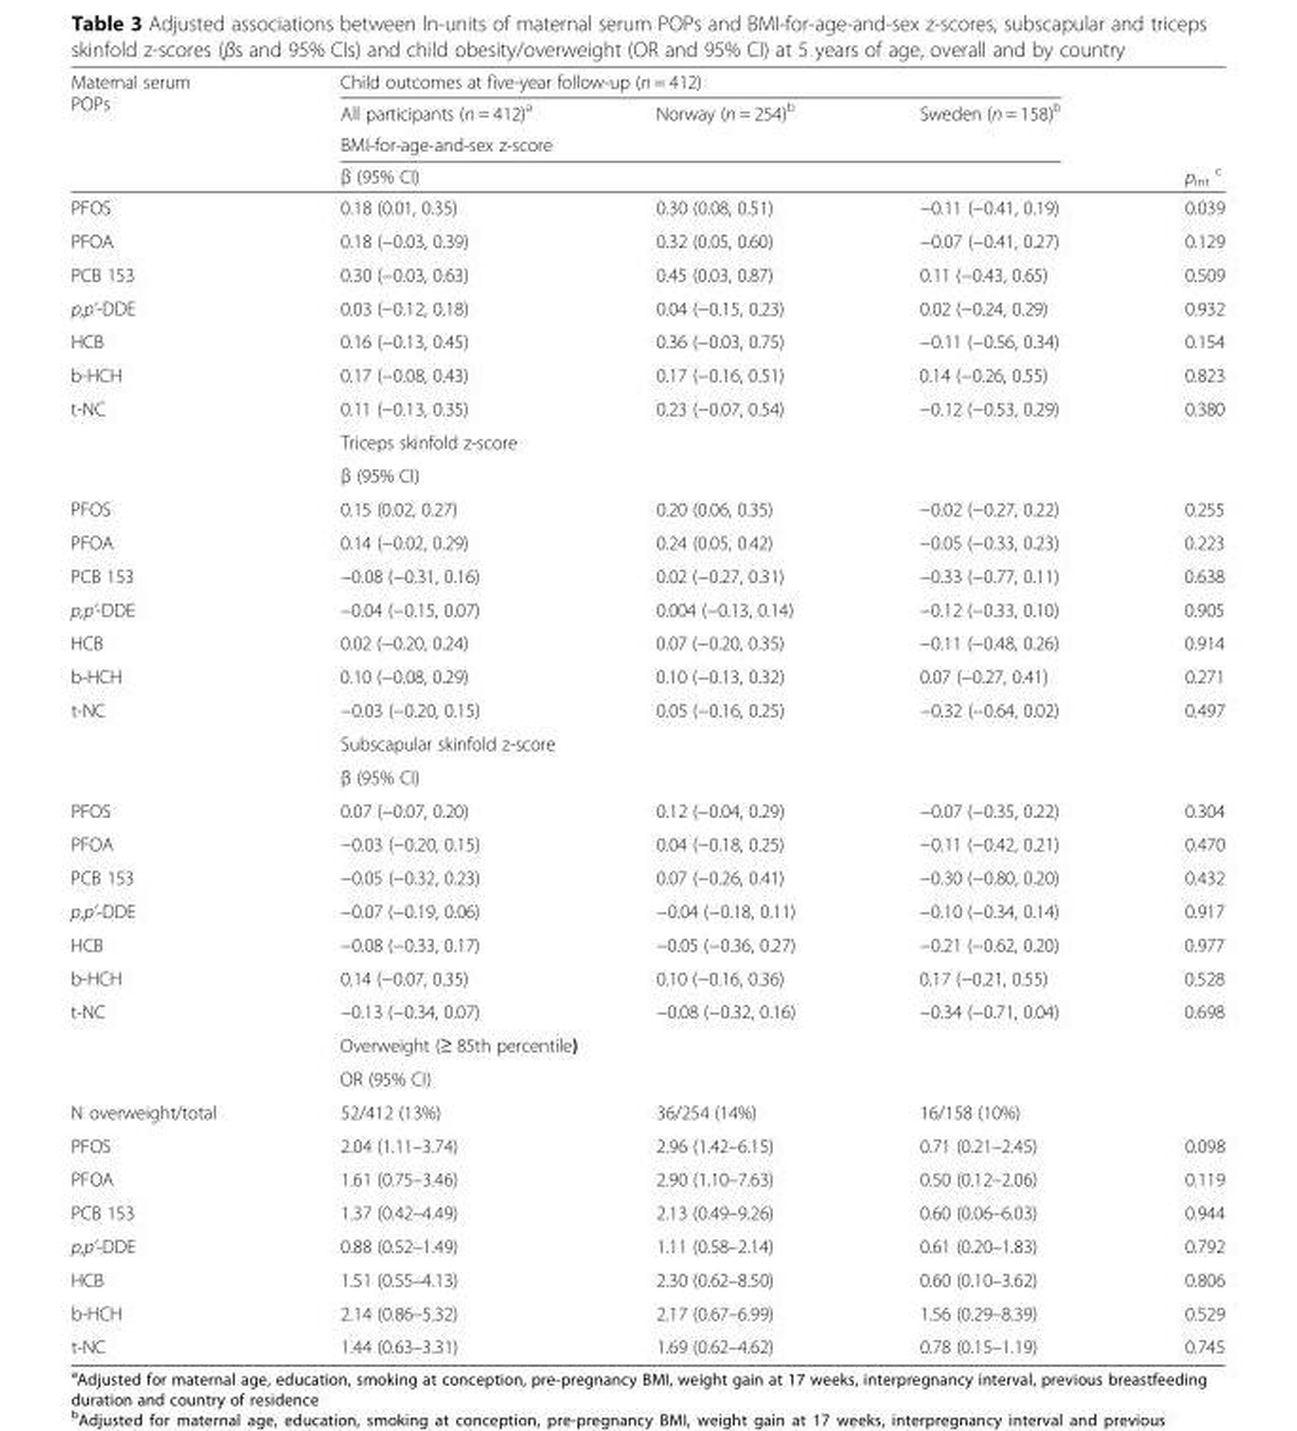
<table><thead><tr><td rowspan="4">Maternal serum POPs</td><td colspan="3">Child outcomes at five-year follow-up (n = 412)</td><td rowspan="4">p<sub>int</sub> <sup>c</sup></td></tr><tr><td>All participants (n = 412)<sup>a</sup></td><td>Norway (n = 254)<sup>b</sup></td><td>Sweden (n = 158)<sup>b</sup></td></tr><tr><td rowspan="2" colspan="3">BMI-for-age-and-sex z-score β (95% CI)</td></tr><tr></tr></thead><tbody><tr><td>PFOS</td><td>0.18 (0.01, 0.35)</td><td>0.30 (0.08, 0.51)</td><td>−0.11 (−0.41, 0.19)</td><td>0.039</td></tr><tr><td>PFOA</td><td>0.18 (−0.03, 0.39)</td><td>0.32 (0.05, 0.60)</td><td>−0.07 (−0.41, 0.27)</td><td>0.129</td></tr><tr><td>PCB 153</td><td>0.30 (−0.03, 0.63)</td><td>0.45 (0.03, 0.87)</td><td>0.11 (−0.43, 0.65)</td><td>0.509</td></tr><tr><td>p,p’-DDE</td><td>0.03 (−0.12, 0.18)</td><td>0.04 (−0.15, 0.23)</td><td>0.02 (−0.24, 0.29)</td><td>0.932</td></tr><tr><td>HCB</td><td>0.16 (−0.13, 0.45)</td><td>0.36 (−0.03, 0.75)</td><td>−0.11 (−0.56, 0.34)</td><td>0.154</td></tr><tr><td>b-HCH</td><td>0.17 (−0.08, 0.43)</td><td>0.17 (−0.16, 0.51)</td><td>0.14 (−0.26, 0.55)</td><td>0.823</td></tr><tr><td rowspan="3">t-NC</td><td>0.11 (−0.13, 0.35)</td><td>0.23 (−0.07, 0.54)</td><td>−0.12 (−0.53, 0.29)</td><td>0.380</td></tr><tr><td colspan="3">Triceps skinfold z-score</td><td></td></tr><tr><td colspan="3">β (95% CI)</td><td></td></tr><tr><td>PFOS</td><td>0.15 (0.02, 0.27)</td><td>0.20 (0.06, 0.35)</td><td>−0.02 (−0.27, 0.22)</td><td>0.255</td></tr><tr><td>PFOA</td><td>0.14 (−0.02, 0.29)</td><td>0.24 (0.05, 0.42)</td><td>−0.05 (−0.33, 0.23)</td><td>0.223</td></tr><tr><td>PCB 153</td><td>−0.08 (−0.31, 0.16)</td><td>0.02 (−0.27, 0.31)</td><td>−0.33 (−0.77, 0.11)</td><td>0.638</td></tr><tr><td>p,p’-DDE</td><td>−0.04 (−0.15, 0.07)</td><td>0.004 (−0.13, 0.14)</td><td>−0.12 (−0.33, 0.10)</td><td>0.905</td></tr><tr><td>HCB</td><td>0.02 (−0.20, 0.24)</td><td>0.07 (−0.20, 0.35)</td><td>−0.11 (−0.48, 0.26)</td><td>0.914</td></tr><tr><td>b-HCH</td><td>0.10 (−0.08, 0.29)</td><td>0.10 (−0.13, 0.32)</td><td>0.07 (−0.27, 0.41)</td><td>0.271</td></tr><tr><td rowspan="3">t-NC</td><td>−0.03 (−0.20, 0.15)</td><td>0.05 (−0.16, 0.25)</td><td>−0.32 (−0.64, 0.02)</td><td>0.497</td></tr><tr><td colspan="3">Subscapular skinfold z-score</td><td></td></tr><tr><td colspan="3">β (95% CI)</td><td></td></tr><tr><td>PFOS</td><td>0.07 (−0.07, 0.20)</td><td>0.12 (−0.04, 0.29)</td><td>−0.07 (−0.35, 0.22)</td><td>0.304</td></tr><tr><td>PFOA</td><td>−0.03 (−0.20, 0.15)</td><td>0.04 (−0.18, 0.25)</td><td>−0.11 (−0.42, 0.21)</td><td>0.470</td></tr><tr><td>PCB 153</td><td>−0.05 (−0.32, 0.23)</td><td>0.07 (−0.26, 0.41)</td><td>−0.30 (−0.80, 0.20)</td><td>0.432</td></tr><tr><td>p,p’-DDE</td><td>−0.07 (−0.19, 0.06)</td><td>−0.04 (−0.18, 0.11)</td><td>−0.10 (−0.34, 0.14)</td><td>0.917</td></tr><tr><td>HCB</td><td>−0.08 (−0.33, 0.17)</td><td>−0.05 (−0.36, 0.27)</td><td>−0.21 (−0.62, 0.20)</td><td>0.977</td></tr><tr><td>b-HCH</td><td>0.14 (−0.07, 0.35)</td><td>0.10 (−0.16, 0.36)</td><td>0.17 (−0.21, 0.55)</td><td>0.528</td></tr><tr><td rowspan="3">t-NC</td><td>−0.13 (−0.34, 0.07)</td><td>−0.08 (−0.32, 0.16)</td><td>−0.34 (−0.71, 0.04)</td><td>0.698</td></tr><tr><td colspan="3">Overweight (≥ 85th percentile)</td><td></td></tr><tr><td colspan="3">OR (95% CI)</td><td></td></tr><tr><td>N overweight/total</td><td>52/412 (13%)</td><td>36/254 (14%)</td><td>16/158 (10%)</td><td></td></tr><tr><td>PFOS</td><td>2.04 (1.11–3.74)</td><td>2.96 (1.42–6.15)</td><td>0.71 (0.21–2.45)</td><td>0.098</td></tr><tr><td>PFOA</td><td>1.61 (0.75–3.46)</td><td>2.90 (1.10–7.63)</td><td>0.50 (0.12–2.06)</td><td>0.119</td></tr><tr><td>PCB 153</td><td>1.37 (0.42–4.49)</td><td>2.13 (0.49–9.26)</td><td>0.60 (0.06–6.03)</td><td>0.944</td></tr><tr><td>p,p’-DDE</td><td>0.88 (0.52–1.49)</td><td>1.11 (0.58–2.14)</td><td>0.61 (0.20–1.83)</td><td>0.792</td></tr><tr><td>HCB</td><td>1.51 (0.55–4.13)</td><td>2.30 (0.62–8.50)</td><td>0.60 (0.10–3.62)</td><td>0.806</td></tr><tr><td>b-HCH</td><td>2.14 (0.86–5.32)</td><td>2.17 (0.67–6.99)</td><td>1.56 (0.29–8.39)</td><td>0.529</td></tr><tr><td>t-NC</td><td>1.44 (0.63–3.31)</td><td>1.69 (0.62–4.62)</td><td>0.78 (0.15–1.19)</td><td>0.745</td></tr></tbody></table>